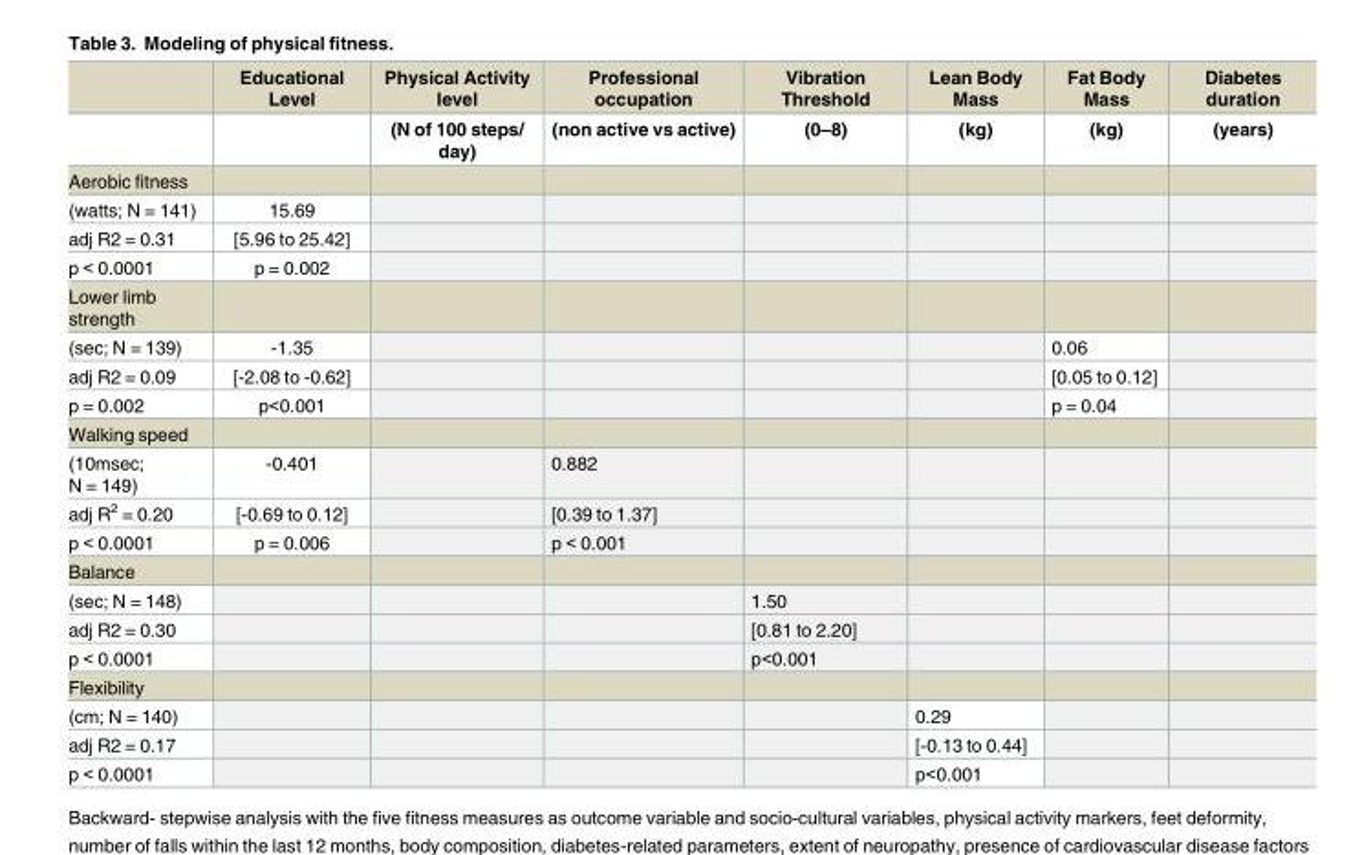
<table><thead><tr><td rowspan="2"></td><td rowspan="2">Educational Level</td><td rowspan="2">Physical Activity level (N of 100 steps/ day)</td><td rowspan="2">Professional occupation (non active vs active)</td><td rowspan="2">Vibration Threshold (0–8)</td><td rowspan="2">Lean Body Mass (kg)</td><td rowspan="2">Fat Body Mass (kg)</td><td rowspan="2">Diabetes duration (years)</td></tr><tr></tr></thead><tbody><tr><td colspan="8">Aerobic fitness</td></tr><tr><td>(watts; N = 141)</td><td>15.69</td><td></td><td></td><td></td><td></td><td></td><td></td></tr><tr><td>adj R2 = 0.31</td><td>[5.96 to 25.42]</td><td></td><td></td><td></td><td></td><td></td><td></td></tr><tr><td>p &lt; 0.0001</td><td>p = 0.002</td><td></td><td></td><td></td><td></td><td></td><td></td></tr><tr><td colspan="8">Lower limb strength</td></tr><tr><td>(sec; N = 139)</td><td>-1.35</td><td></td><td></td><td></td><td></td><td>0.06</td><td></td></tr><tr><td>adj R2 = 0.09</td><td>[-2.08 to -0.62]</td><td></td><td></td><td></td><td></td><td>[0.05 to 0.12]</td><td></td></tr><tr><td>p = 0.002</td><td>p&lt;0.001</td><td></td><td></td><td></td><td></td><td>p = 0.04</td><td></td></tr><tr><td colspan="8">Walking speed</td></tr><tr><td>(10msec; N = 149)</td><td>-0.401</td><td></td><td>0.882</td><td></td><td></td><td></td><td></td></tr><tr><td>adj R<sup>2</sup> = 0.20</td><td>[-0.69 to 0.12]</td><td></td><td>[0.39 to 1.37]</td><td></td><td></td><td></td><td></td></tr><tr><td>p &lt; 0.0001</td><td>p = 0.006</td><td></td><td>p &lt; 0.001</td><td></td><td></td><td></td><td></td></tr><tr><td colspan="8">Balance</td></tr><tr><td>(sec; N = 148)</td><td></td><td></td><td></td><td>1.50</td><td></td><td></td><td></td></tr><tr><td>adj R2 = 0.30</td><td></td><td></td><td></td><td>[0.81 to 2.20]</td><td></td><td></td><td></td></tr><tr><td>p &lt; 0.0001</td><td></td><td></td><td></td><td>p&lt;0.001</td><td></td><td></td><td></td></tr><tr><td colspan="8">Flexibility</td></tr><tr><td>(cm; N = 140)</td><td></td><td></td><td></td><td></td><td>0.29</td><td></td><td></td></tr><tr><td>adj R2 = 0.17</td><td></td><td></td><td></td><td></td><td>[-0.13 to 0.44]</td><td></td><td></td></tr><tr><td>p &lt; 0.0001</td><td></td><td></td><td></td><td></td><td>p&lt;0.001</td><td></td><td></td></tr></tbody></table>